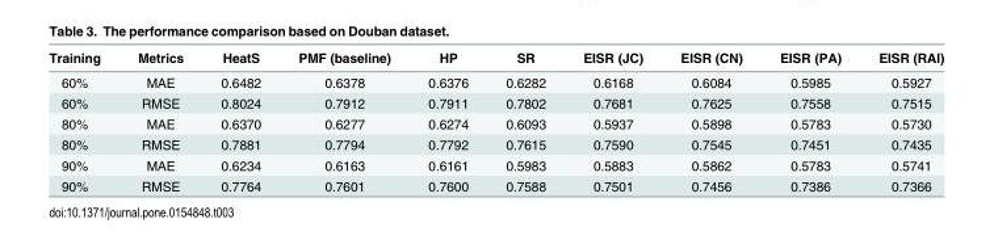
<table><thead><tr><td>Training</td><td>Metrics</td><td>HeatS</td><td>PMF (baseline)</td><td>HP</td><td>SR</td><td>EISR (JC)</td><td>EISR (CN)</td><td>EISR (PA)</td><td>EISR (RAI)</td></tr></thead><tbody><tr><td>60%</td><td>MAE</td><td>0.6482</td><td>0.6378</td><td>0.6376</td><td>0.6282</td><td>0.6168</td><td>0.6084</td><td>0.5985</td><td>0.5927</td></tr><tr><td>60%</td><td>RMSE</td><td>0.8024</td><td>0.7912</td><td>0.7911</td><td>0.7802</td><td>0.7681</td><td>0.7625</td><td>0.7558</td><td>0.7515</td></tr><tr><td>80%</td><td>MAE</td><td>0.6370</td><td>0.6277</td><td>0.6274</td><td>0.6093</td><td>0.5937</td><td>0.5898</td><td>0.5783</td><td>0.5730</td></tr><tr><td>80%</td><td>RMSE</td><td>0.7881</td><td>0.7794</td><td>0.7792</td><td>0.7615</td><td>0.7590</td><td>0.7545</td><td>0.7451</td><td>0.7435</td></tr><tr><td>90%</td><td>MAE</td><td>0.6234</td><td>0.6163</td><td>0.6161</td><td>0.5983</td><td>0.5883</td><td>0.5862</td><td>0.5783</td><td>0.5741</td></tr><tr><td>90%</td><td>RMSE</td><td>0.7764</td><td>0.7601</td><td>0.7600</td><td>0.7588</td><td>0.7501</td><td>0.7456</td><td>0.7386</td><td>0.7366</td></tr></tbody></table>